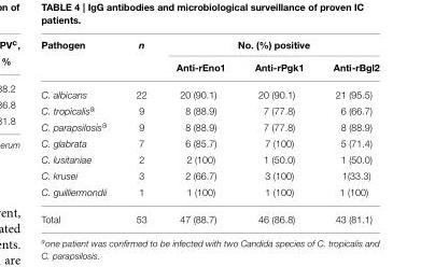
<table><thead><tr><td rowspan="2">Pathogen</td><td rowspan="2">n</td><td colspan="3">No. (%) positive</td></tr><tr><td>Anti-rEno1</td><td>Anti-rPgk1</td><td>Anti-rBgl2</td></tr></thead><tbody><tr><td>C. albicans</td><td>22</td><td>20 (90.1)</td><td>20 (90.1)</td><td>21 (95.5)</td></tr><tr><td>C. tropicalis<sup>a</sup></td><td>9</td><td>8 (88.9)</td><td>7 (77.8)</td><td>6 (66.7)</td></tr><tr><td>C. parapsilosis<sup>a</sup></td><td>9</td><td>8 (88.9)</td><td>7 (77.8)</td><td>8 (88.9)</td></tr><tr><td>C. glabrata</td><td>7</td><td>6 (85.7)</td><td>7 (100)</td><td>5 (71.4)</td></tr><tr><td>C. lusitaniae</td><td>2</td><td>2 (100)</td><td>1 (50.0)</td><td>1 (50.0)</td></tr><tr><td>C. krusei</td><td>3</td><td>2 (66.7)</td><td>3 (100)</td><td>1(33.3)</td></tr><tr><td>C. guilliermondii</td><td>1</td><td>1 (100)</td><td>1 (100)</td><td>1 (100)</td></tr><tr><td>Total</td><td>53</td><td>47 (88.7)</td><td>46 (86.8)</td><td>43 (81.1)</td></tr></tbody></table>